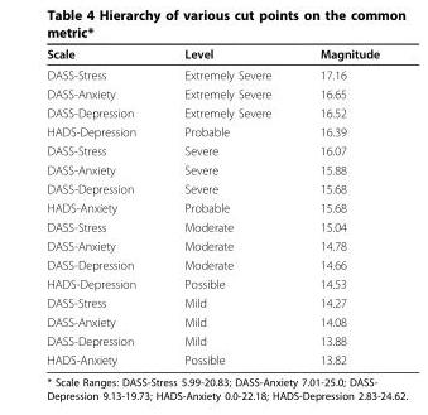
<table><thead><tr><td>Scale</td><td>Level</td><td>Magnitude</td></tr></thead><tbody><tr><td>DASS-Stress</td><td>Extremely Severe</td><td>17.16</td></tr><tr><td>DASS-Anxiety</td><td>Extremely Severe</td><td>16.65</td></tr><tr><td>DASS-Depression</td><td>Extremely Severe</td><td>16.52</td></tr><tr><td>HADS-Depression</td><td>Probable</td><td>16.39</td></tr><tr><td>DASS-Stress</td><td>Severe</td><td>16.07</td></tr><tr><td>DASS-Anxiety</td><td>Severe</td><td>15.88</td></tr><tr><td>DASS-Depression</td><td>Severe</td><td>15.68</td></tr><tr><td>HADS-Anxiety</td><td>Probable</td><td>15.68</td></tr><tr><td>DASS-Stress</td><td>Moderate</td><td>15.04</td></tr><tr><td>DASS-Anxiety</td><td>Moderate</td><td>14.78</td></tr><tr><td>DASS-Depression</td><td>Moderate</td><td>14.66</td></tr><tr><td>HADS-Depression</td><td>Possible</td><td>14.53</td></tr><tr><td>DASS-Stress</td><td>Mild</td><td>14.27</td></tr><tr><td>DASS-Anxiety</td><td>Mild</td><td>14.08</td></tr><tr><td>DASS-Depression</td><td>Mild</td><td>13.88</td></tr><tr><td>HADS-Anxiety</td><td>Possible</td><td>13.82</td></tr></tbody></table>